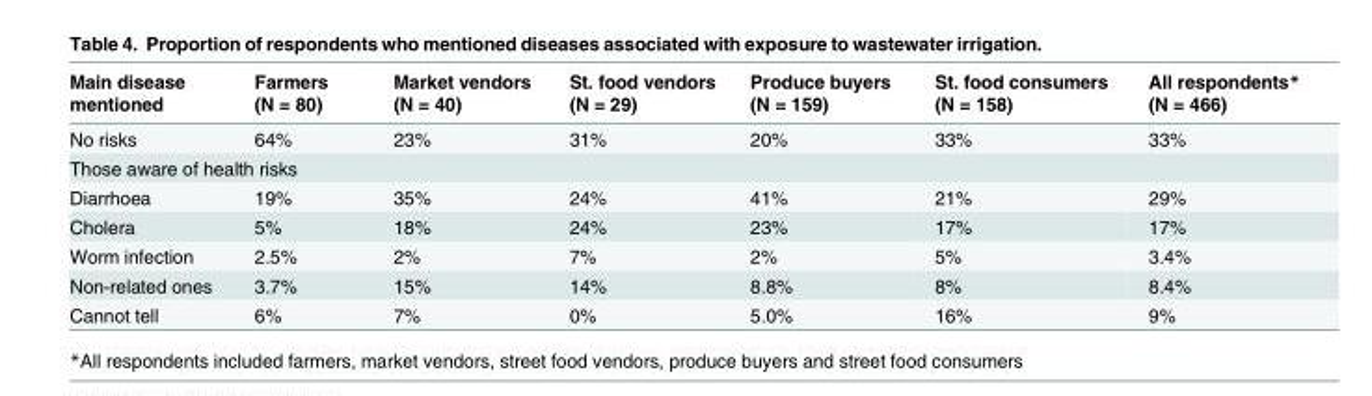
<table><thead><tr><td>Main disease mentioned</td><td>Farmers (N = 80)</td><td>Market vendors (N = 40)</td><td>St. food vendors (N = 29)</td><td>Produce buyers (N = 159)</td><td>St. food consumers (N = 158)</td><td>All respondents* (N = 466)</td></tr></thead><tbody><tr><td>No risks</td><td>64%</td><td>23%</td><td>31%</td><td>20%</td><td>33%</td><td>33%</td></tr><tr><td colspan="7">Those aware of health risks</td></tr><tr><td>Diarrhoea</td><td>19%</td><td>35%</td><td>24%</td><td>41%</td><td>21%</td><td>29%</td></tr><tr><td>Cholera</td><td>5%</td><td>18%</td><td>24%</td><td>23%</td><td>17%</td><td>17%</td></tr><tr><td>Worm infection</td><td>2.5%</td><td>2%</td><td>7%</td><td>2%</td><td>5%</td><td>3.4%</td></tr><tr><td>Non-related ones</td><td>3.7%</td><td>15%</td><td>14%</td><td>8.8%</td><td>8%</td><td>8.4%</td></tr><tr><td>Cannot tell</td><td>6%</td><td>7%</td><td>0%</td><td>5.0%</td><td>16%</td><td>9%</td></tr></tbody></table>